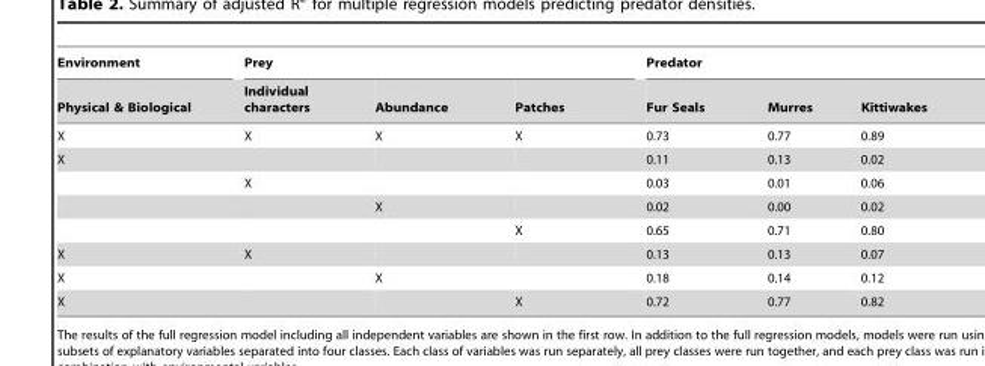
<table><thead><tr><td rowspan="2">Environment Physical &amp; Biological</td><td colspan="3">Prey</td><td colspan="3">Predator</td></tr><tr><td>Individual characters</td><td>Abundance</td><td>Patches</td><td>Fur Seals</td><td>Murres</td><td>Kittiwakes</td></tr></thead><tbody><tr><td>X</td><td>X</td><td>X</td><td>X</td><td>0.73</td><td>0.77</td><td>0.89</td></tr><tr><td rowspan="4">X</td><td></td><td></td><td></td><td>0.11</td><td>0.13</td><td>0.02</td></tr><tr><td>X</td><td></td><td></td><td>0.03</td><td>0.01</td><td>0.06</td></tr><tr><td></td><td>X</td><td></td><td>0.02</td><td>0.00</td><td>0.02</td></tr><tr><td></td><td></td><td>X</td><td>0.65</td><td>0.71</td><td>0.80</td></tr><tr><td>X</td><td>X</td><td></td><td></td><td>0.13</td><td>0.13</td><td>0.07</td></tr><tr><td>X</td><td></td><td>X</td><td></td><td>0.18</td><td>0.14</td><td>0.12</td></tr><tr><td>X</td><td></td><td></td><td>X</td><td>0.72</td><td>0.77</td><td>0.82</td></tr></tbody></table>